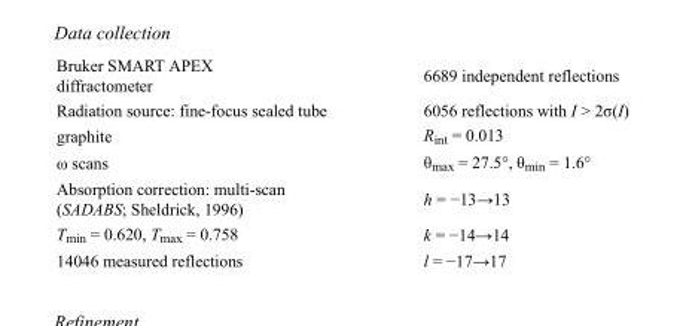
<table><tbody><tr><td>Bruker SMART APEX diffractometer</td><td>6689 independent reflections</td></tr><tr><td>Radiation source: fine-focus sealed tube</td><td>6056 reflections with I &gt; 2σ(I)</td></tr><tr><td>graphite</td><td>R<sub>int</sub> = 0.013</td></tr><tr><td>ω scans</td><td>θ<sub>max</sub> = 27.5°, θ<sub>min</sub> = 1.6°</td></tr><tr><td>Absorption correction: multi-scan (SADABS; Sheldrick, 1996)</td><td>h = −13→13</td></tr><tr><td>T<sub>min</sub> = 0.620, T<sub>max</sub> = 0.758</td><td>k = −14→14</td></tr><tr><td>14046 measured reflections</td><td>l = −17→17</td></tr></tbody></table>